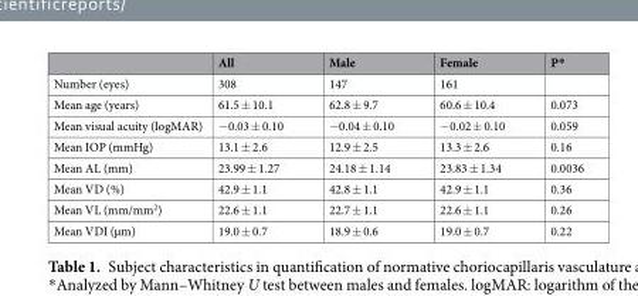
<table><thead><tr><td></td><td>All</td><td>Male</td><td>Female</td><td>P*</td></tr></thead><tbody><tr><td>Number (eyes)</td><td>308</td><td>147</td><td>161</td><td></td></tr><tr><td>Mean age (years)</td><td>61.5 ± 10.1</td><td>62.8 ± 9.7</td><td>60.6 ± 10.4</td><td>0.073</td></tr><tr><td>Mean visual acuity (logMAR)</td><td>−0.03 ± 0.10</td><td>−0.04 ± 0.10</td><td>−0.02 ± 0.10</td><td>0.059</td></tr><tr><td>Mean IOP (mmHg)</td><td>13.1 ± 2.6</td><td>12.9 ± 2.5</td><td>13.3 ± 2.6</td><td>0.16</td></tr><tr><td>Mean AL (mm)</td><td>23.99 ± 1.27</td><td>24.18 ± 1.14</td><td>23.83 ± 1.34</td><td>0.0036</td></tr><tr><td>Mean VD (%)</td><td>42.9 ± 1.1</td><td>42.8 ± 1.1</td><td>42.9 ± 1.1</td><td>0.36</td></tr><tr><td>Mean VL (mm/mm<sup>2</sup>)</td><td>22.6 ± 1.1</td><td>22.7 ± 1.1</td><td>22.6 ± 1.1</td><td>0.26</td></tr><tr><td>Mean VDI (µm)</td><td>19.0 ± 0.7</td><td>18.9 ± 0.6</td><td>19.0 ± 0.7</td><td>0.22</td></tr></tbody></table>